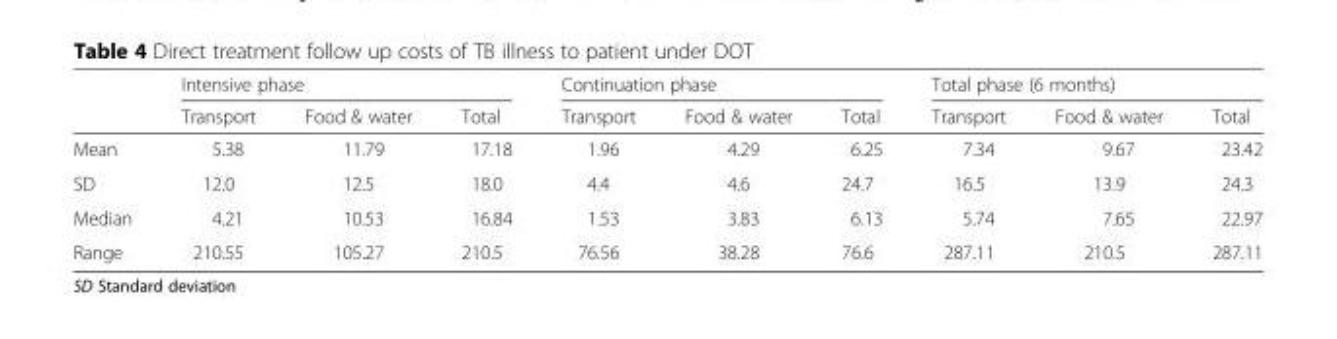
<table><thead><tr><td rowspan="2"></td><td colspan="3">Intensive phase</td><td colspan="3">Continuation phase</td><td colspan="3">Total phase (6 months)</td></tr><tr><td>Transport</td><td>Food &amp; water</td><td>Total</td><td>Transport</td><td>Food &amp; water</td><td>Total</td><td>Transport</td><td>Food &amp; water</td><td>Total</td></tr></thead><tbody><tr><td>Mean</td><td>5.38</td><td>11.79</td><td>17.18</td><td>1.96</td><td>4.29</td><td>6.25</td><td>7.34</td><td>9.67</td><td>23.42</td></tr><tr><td>SD</td><td>12.0</td><td>12.5</td><td>18.0</td><td>4.4</td><td>4.6</td><td>24.7</td><td>16.5</td><td>13.9</td><td>24.3</td></tr><tr><td>Median</td><td>4.21</td><td>10.53</td><td>16.84</td><td>1.53</td><td>3.83</td><td>6.13</td><td>5.74</td><td>7.65</td><td>22.97</td></tr><tr><td>Range</td><td>210.55</td><td>105.27</td><td>210.5</td><td>76.56</td><td>38.28</td><td>76.6</td><td>287.11</td><td>210.5</td><td>287.11</td></tr></tbody></table>